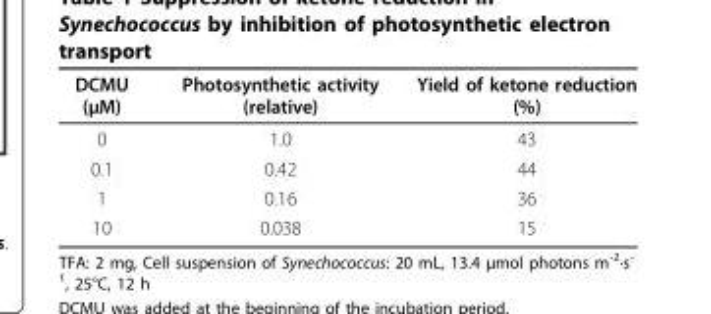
<table><thead><tr><td>DCMU (μM)</td><td>Photosynthetic activity (relative)</td><td>Yield of ketone reduction (%)</td></tr></thead><tbody><tr><td>0</td><td>1.0</td><td>43</td></tr><tr><td>0.1</td><td>0.42</td><td>44</td></tr><tr><td>1</td><td>0.16</td><td>36</td></tr><tr><td>10</td><td>0.038</td><td>15</td></tr></tbody></table>